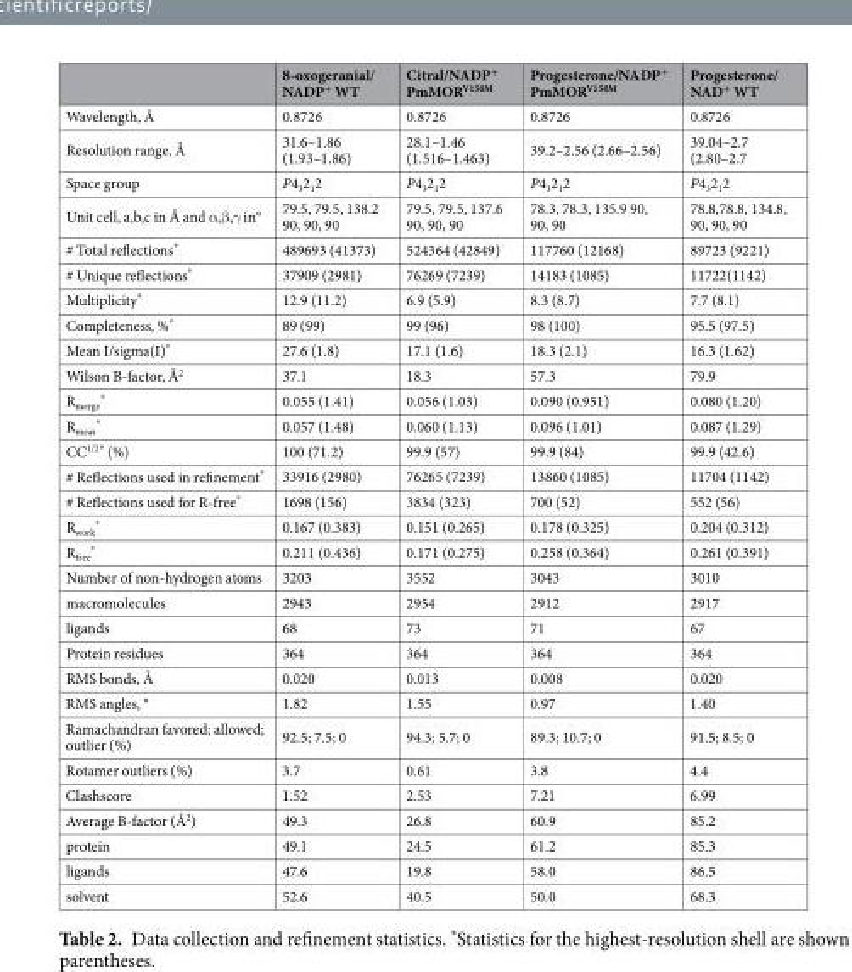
<table><thead><tr><td></td><td>8-oxogeranial/ NADP<sup>+</sup> WT</td><td>Citral/NADP<sup>+</sup> PmMOR<sup>V150M</sup></td><td>Progesterone/NADP<sup>+</sup> PmMOR<sup>V150M</sup></td><td>Progesterone/ NAD<sup>+</sup> WT</td></tr></thead><tbody><tr><td>Wavelength, Å</td><td>0.8726</td><td>0.8726</td><td>0.8726</td><td>0.8726</td></tr><tr><td>Resolution range, Å</td><td>31.6–1.86 (1.93–1.86)</td><td>28.1–1.46 (1.516–1.463)</td><td>39.2–2.56 (2.66–2.56)</td><td>39.04–2.7 (2.80–2.7</td></tr><tr><td>Space group</td><td>P4<sub>3</sub>2<sub>1</sub>2</td><td>P4<sub>3</sub>2<sub>1</sub>2</td><td>P4<sub>3</sub>2<sub>1</sub>2</td><td>P4<sub>3</sub>2<sub>1</sub>2</td></tr><tr><td>Unit cell, a,b,c in Å and α,β,γ in°</td><td>79.5, 79.5, 138.2 90, 90, 90</td><td>79.5, 79.5, 137.6 90, 90, 90</td><td>78.3, 78.3, 135.9 90, 90, 90</td><td>78.8,78.8, 134.8, 90, 90, 90</td></tr><tr><td># Total reflections*</td><td>489693 (41373)</td><td>524364 (42849)</td><td>117760 (12168)</td><td>89723 (9221)</td></tr><tr><td># Unique reflections*</td><td>37909 (2981)</td><td>76269 (7239)</td><td>14183 (1085)</td><td>11722(1142)</td></tr><tr><td>Multiplicity*</td><td>12.9 (11.2)</td><td>6.9 (5.9)</td><td>8.3 (8.7)</td><td>7.7 (8.1)</td></tr><tr><td>Completeness, %*</td><td>89 (99)</td><td>99 (96)</td><td>98 (100)</td><td>95.5 (97.5)</td></tr><tr><td>Mean I/sigma(I)*</td><td>27.6 (1.8)</td><td>17.1 (1.6)</td><td>18.3 (2.1)</td><td>16.3 (1.62)</td></tr><tr><td>Wilson B-factor, Å<sup>2</sup></td><td>37.1</td><td>18.3</td><td>57.3</td><td>79.9</td></tr><tr><td>R<sub>merge</sub> *</td><td>0.055 (1.41)</td><td>0.056 (1.03)</td><td>0.090 (0.951)</td><td>0.080 (1.20)</td></tr><tr><td>R<sub>meas</sub> *</td><td>0.057 (1.48)</td><td>0.060 (1.13)</td><td>0.096 (1.01)</td><td>0.087 (1.29)</td></tr><tr><td>CC<sup>1/2*</sup> (%)</td><td>100 (71.2)</td><td>99.9 (57)</td><td>99.9 (84)</td><td>99.9 (42.6)</td></tr><tr><td># Reflections used in refinement*</td><td>33916 (2980)</td><td>76265 (7239)</td><td>13860 (1085)</td><td>11704 (1142)</td></tr><tr><td># Reflections used for R-free*</td><td>1698 (156)</td><td>3834 (323)</td><td>700 (52)</td><td>552 (56)</td></tr><tr><td>R<sub>work</sub> *</td><td>0.167 (0.383)</td><td>0.151 (0.265)</td><td>0.178 (0.325)</td><td>0.204 (0.312)</td></tr><tr><td>R<sub>free</sub> *</td><td>0.211 (0.436)</td><td>0.171 (0.275)</td><td>0.258 (0.364)</td><td>0.261 (0.391)</td></tr><tr><td>Number of non-hydrogen atoms</td><td>3203</td><td>3552</td><td>3043</td><td>3010</td></tr><tr><td>macromolecules</td><td>2943</td><td>2954</td><td>2912</td><td>2917</td></tr><tr><td>ligands</td><td>68</td><td>73</td><td>71</td><td>67</td></tr><tr><td>Protein residues</td><td>364</td><td>364</td><td>364</td><td>364</td></tr><tr><td>RMS bonds, Å</td><td>0.020</td><td>0.013</td><td>0.008</td><td>0.020</td></tr><tr><td>RMS angles, °</td><td>1.82</td><td>1.55</td><td>0.97</td><td>1.40</td></tr><tr><td>Ramachandran favored; allowed; outlier (%)</td><td>92.5; 7.5; 0</td><td>94.3; 5.7; 0</td><td>89.3; 10.7; 0</td><td>91.5; 8.5; 0</td></tr><tr><td>Rotamer outliers (%)</td><td>3.7</td><td>0.61</td><td>3.8</td><td>4.4</td></tr><tr><td>Clashscore</td><td>1.52</td><td>2.53</td><td>7.21</td><td>6.99</td></tr><tr><td>Average B-factor (Å<sup>2</sup>)</td><td>49.3</td><td>26.8</td><td>60.9</td><td>85.2</td></tr><tr><td>protein</td><td>49.1</td><td>24.5</td><td>61.2</td><td>85.3</td></tr><tr><td>ligands</td><td>47.6</td><td>19.8</td><td>58.0</td><td>86.5</td></tr><tr><td>solvent</td><td>52.6</td><td>40.5</td><td>50.0</td><td>68.3</td></tr></tbody></table>